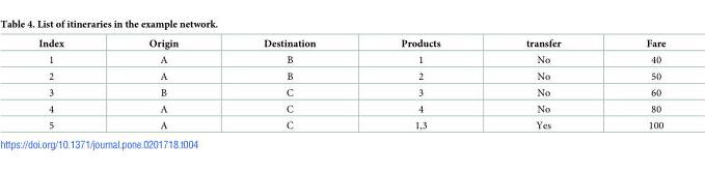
<table><thead><tr><td>Index</td><td>Origin</td><td>Destination</td><td>Products</td><td>transfer</td><td>Fare</td></tr></thead><tbody><tr><td>1</td><td>A</td><td>B</td><td>1</td><td>No</td><td>40</td></tr><tr><td>2</td><td>A</td><td>B</td><td>2</td><td>No</td><td>50</td></tr><tr><td>3</td><td>B</td><td>C</td><td>3</td><td>No</td><td>60</td></tr><tr><td>4</td><td>A</td><td>C</td><td>4</td><td>No</td><td>80</td></tr><tr><td>5</td><td>A</td><td>C</td><td>1,3</td><td>Yes</td><td>100</td></tr></tbody></table>